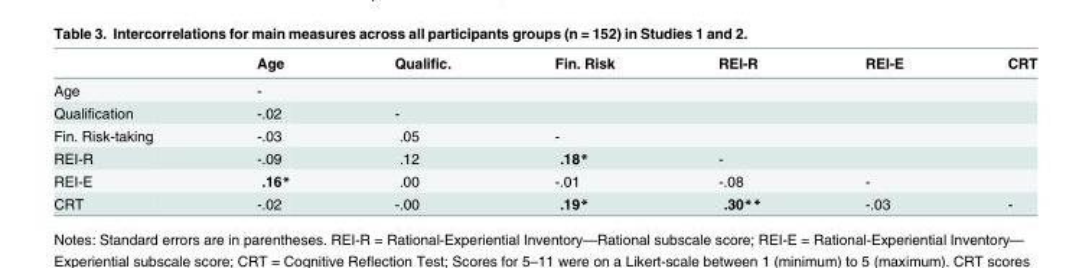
<table><thead><tr><td></td><td>Age</td><td>Qualific.</td><td>Fin. Risk</td><td>REI-R</td><td>REI-E</td><td>CRT</td></tr></thead><tbody><tr><td>Age</td><td>-</td><td></td><td></td><td></td><td></td><td></td></tr><tr><td>Qualification</td><td>-.02</td><td>-</td><td></td><td></td><td></td><td></td></tr><tr><td>Fin. Risk-taking</td><td>-.03</td><td>.05</td><td>-</td><td></td><td></td><td></td></tr><tr><td>REI-R</td><td>-.09</td><td>.12</td><td>.18*</td><td>-</td><td></td><td></td></tr><tr><td>REI-E</td><td>.16*</td><td>.00</td><td>-.01</td><td>-.08</td><td>-</td><td></td></tr><tr><td>CRT</td><td>-.02</td><td>-.00</td><td>.19*</td><td>.30**</td><td>-.03</td><td>-</td></tr></tbody></table>